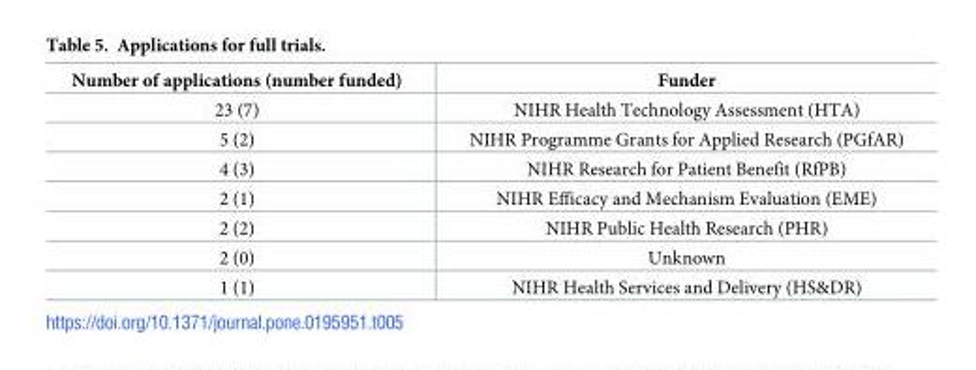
<table><thead><tr><td>Number of applications (number funded)</td><td>Funder</td></tr></thead><tbody><tr><td>23 (7)</td><td>NIHR Health Technology Assessment (HTA)</td></tr><tr><td>5 (2)</td><td>NIHR Programme Grants for Applied Research (PGfAR)</td></tr><tr><td>4 (3)</td><td>NIHR Research for Patient Benefit (RfPB)</td></tr><tr><td>2 (1)</td><td>NIHR Efficacy and Mechanism Evaluation (EME)</td></tr><tr><td>2 (2)</td><td>NIHR Public Health Research (PHR)</td></tr><tr><td>2 (0)</td><td>Unknown</td></tr><tr><td>1 (1)</td><td>NIHR Health Services and Delivery (HS&amp;DR)</td></tr></tbody></table>